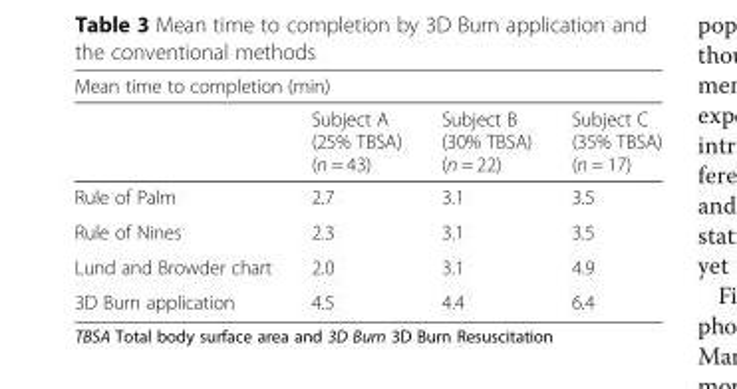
<table><thead><tr><td colspan="4">Mean time to completion (min)</td></tr><tr><td></td><td>Subject A (25% TBSA) (n = 43)</td><td>Subject B (30% TBSA) (n = 22)</td><td>Subject C (35% TBSA) (n = 17)</td></tr></thead><tbody><tr><td>Rule of Palm</td><td>2.7</td><td>3.1</td><td>3.5</td></tr><tr><td>Rule of Nines</td><td>2.3</td><td>3.1</td><td>3.5</td></tr><tr><td>Lund and Browder chart</td><td>2.0</td><td>3.1</td><td>4.9</td></tr><tr><td>3D Burn application</td><td>4.5</td><td>4.4</td><td>6.4</td></tr></tbody></table>